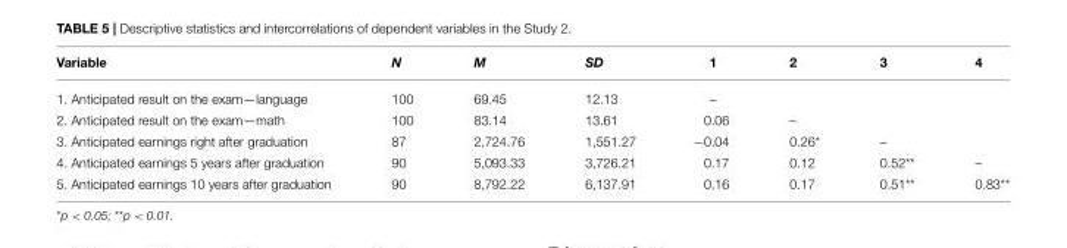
<table><thead><tr><td>Variable</td><td>N</td><td>M</td><td>SD</td><td>1</td><td>2</td><td>3</td><td>4</td></tr></thead><tbody><tr><td>1. Anticipated result on the exam—language</td><td>100</td><td>69.45</td><td>12.13</td><td>–</td><td></td><td></td><td></td></tr><tr><td>2. Anticipated result on the exam—math</td><td>100</td><td>83.14</td><td>13.61</td><td>0.06</td><td>–</td><td></td><td></td></tr><tr><td>3. Anticipated earnings right after graduation</td><td>87</td><td>2,724.76</td><td>1,551.27</td><td>−0.04</td><td>0.26*</td><td>–</td><td></td></tr><tr><td>4. Anticipated earnings 5 years after graduation</td><td>90</td><td>5,093.33</td><td>3,726.21</td><td>0.17</td><td>0.12</td><td>0.52**</td><td>–</td></tr><tr><td>5. Anticipated earnings 10 years after graduation</td><td>90</td><td>8,792.22</td><td>6,137.91</td><td>0.16</td><td>0.17</td><td>0.51**</td><td>0.83**</td></tr></tbody></table>